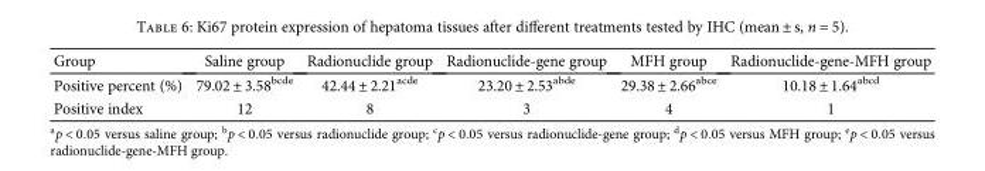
<table><thead><tr><td>Group</td><td>Saline group</td><td>Radionuclide group</td><td>Radionuclide-gene group</td><td>MFH group</td><td>Radionuclide-gene-MFH group</td></tr></thead><tbody><tr><td>Positive percent (%)</td><td>79.02 ± 3.58<sup>bcde</sup></td><td>42.44 ± 2.21<sup>acde</sup></td><td>23.20 ± 2.53<sup>abde</sup></td><td>29.38 ± 2.66<sup>abce</sup></td><td>10.18 ± 1.64<sup>abcd</sup></td></tr><tr><td>Positive index</td><td>12</td><td>8</td><td>3</td><td>4</td><td>1</td></tr></tbody></table>